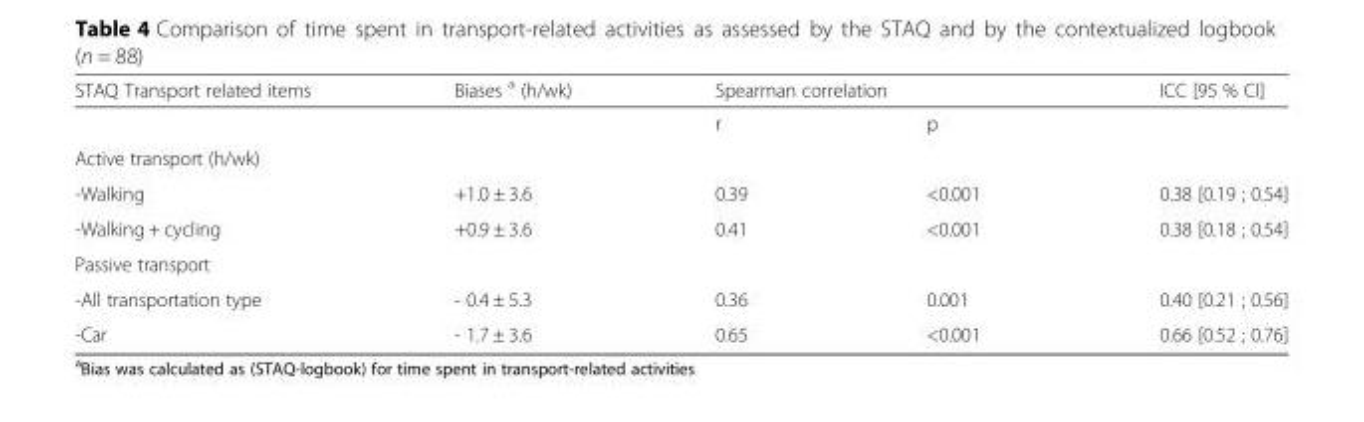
<table><thead><tr><td rowspan="2">STAQ Transport related items</td><td rowspan="2">Biases <sup>a</sup> (h/wk)</td><td colspan="2">Spearman correlation</td><td rowspan="2">ICC [95 % CI]</td></tr><tr><td>r</td><td>p</td></tr></thead><tbody><tr><td colspan="5">Active transport (h/wk)</td></tr><tr><td>-Walking</td><td>+1.0 ± 3.6</td><td>0.39</td><td>&lt;0.001</td><td>0.38 [0.19 ; 0.54]</td></tr><tr><td>-Walking + cycling</td><td>+0.9 ± 3.6</td><td>0.41</td><td>&lt;0.001</td><td>0.38 [0.18 ; 0.54]</td></tr><tr><td colspan="5">Passive transport</td></tr><tr><td>-All transportation type</td><td>- 0.4 ± 5.3</td><td>0.36</td><td>0.001</td><td>0.40 [0.21 ; 0.56]</td></tr><tr><td>-Car</td><td>- 1.7 ± 3.6</td><td>0.65</td><td>&lt;0.001</td><td>0.66 [0.52 ; 0.76]</td></tr></tbody></table>